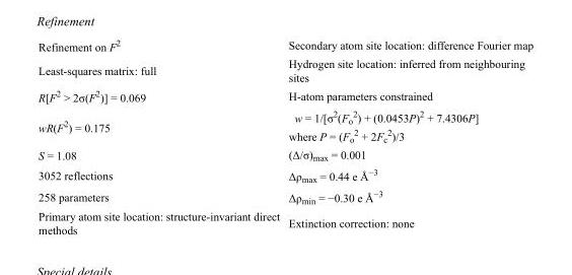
<table><tbody><tr><td>Refinement on F<sup>2</sup></td><td>Secondary atom site location: difference Fourier map</td></tr><tr><td>Least-squares matrix: full</td><td>Hydrogen site location: inferred from neighbouring sites</td></tr><tr><td>R[F<sup>2</sup> &gt; 2σ(F<sup>2</sup>)] = 0.069</td><td>H-atom parameters constrained</td></tr><tr><td>wR(F<sup>2</sup>) = 0.175</td><td>w = 1/[σ<sup>2</sup>(F<sub>o</sub> <sup>2</sup>) + (0.0453P)<sup>2</sup> + 7.4306P] where P = (F<sub>o</sub> <sup>2</sup> + 2F<sub>c</sub> <sup>2</sup>)/3</td></tr><tr><td>S = 1.08</td><td>(Δ/σ)<sub>max</sub> = 0.001</td></tr><tr><td>3052 reflections</td><td>Δρ<sub>max</sub> = 0.44 e Å<sup>−3</sup></td></tr><tr><td>258 parameters</td><td>Δρ<sub>min</sub> = −0.30 e Å<sup>−3</sup></td></tr><tr><td>Primary atom site location: structure-invariant direct methods</td><td>Extinction correction: none</td></tr></tbody></table>